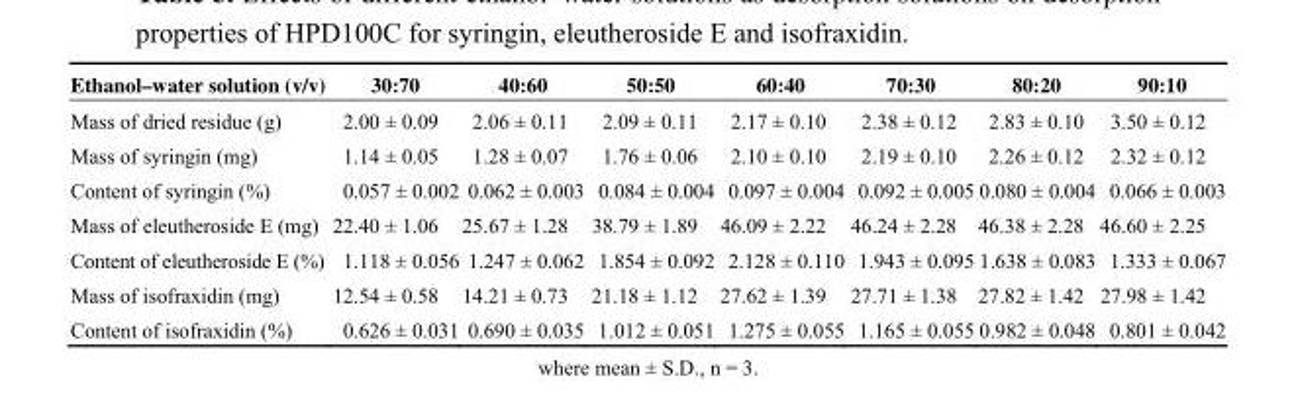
<table><thead><tr><td>Ethanol–water solution (v/v)</td><td>30:70</td><td>40:60</td><td>50:50</td><td>60:40</td><td>70:30</td><td>80:20</td><td>90:10</td></tr></thead><tbody><tr><td>Mass of dried residue (g)</td><td>2.00 ± 0.09</td><td>2.06 ± 0.11</td><td>2.09 ± 0.11</td><td>2.17 ± 0.10</td><td>2.38 ± 0.12</td><td>2.83 ± 0.10</td><td>3.50 ± 0.12</td></tr><tr><td>Mass of syringin (mg)</td><td>1.14 ± 0.05</td><td>1.28 ± 0.07</td><td>1.76 ± 0.06</td><td>2.10 ± 0.10</td><td>2.19 ± 0.10</td><td>2.26 ± 0.12</td><td>2.32 ± 0.12</td></tr><tr><td>Content of syringin (%)</td><td>0.057 ± 0.002</td><td>0.062 ± 0.003</td><td>0.084 ± 0.004</td><td>0.097 ± 0.004</td><td>0.092 ± 0.005</td><td>0.080 ± 0.004</td><td>0.066 ± 0.003</td></tr><tr><td>Mass of eleutheroside E (mg)</td><td>22.40 ± 1.06</td><td>25.67 ± 1.28</td><td>38.79 ± 1.89</td><td>46.09 ± 2.22</td><td>46.24 ± 2.28</td><td>46.38 ± 2.28</td><td>46.60 ± 2.25</td></tr><tr><td>Content of eleutheroside E (%)</td><td>1.118 ± 0.056</td><td>1.247 ± 0.062</td><td>1.854 ± 0.092</td><td>2.128 ± 0.110</td><td>1.943 ± 0.095</td><td>1.638 ± 0.083</td><td>1.333 ± 0.067</td></tr><tr><td>Mass of isofraxidin (mg)</td><td>12.54 ± 0.58</td><td>14.21 ± 0.73</td><td>21.18 ± 1.12</td><td>27.62 ± 1.39</td><td>27.71 ± 1.38</td><td>27.82 ± 1.42</td><td>27.98 ± 1.42</td></tr><tr><td>Content of isofraxidin (%)</td><td>0.626 ± 0.031</td><td>0.690 ± 0.035</td><td>1.012 ± 0.051</td><td>1.275 ± 0.055</td><td>1.165 ± 0.055</td><td>0.982 ± 0.048</td><td>0.801 ± 0.042</td></tr></tbody></table>